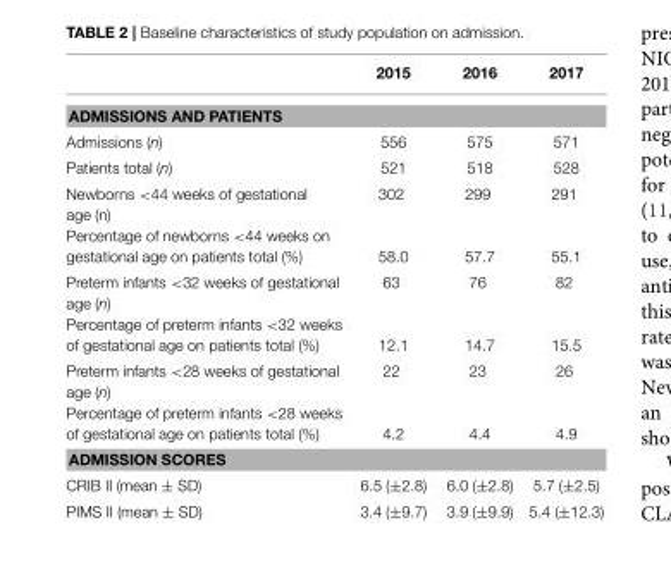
<table><thead><tr><td></td><td>2015</td><td>2016</td><td>2017</td></tr></thead><tbody><tr><td colspan="4">ADMISSIONS AND PATIENTS</td></tr><tr><td>Admissions (n)</td><td>556</td><td>575</td><td>571</td></tr><tr><td>Patients total (n)</td><td>521</td><td>518</td><td>528</td></tr><tr><td>Newborns &lt;44 weeks of gestational age (n) Percentage of newborns &lt;44 weeks on gestational age on patients total (%)</td><td>302 58.0</td><td>299 57.7</td><td>291 55.1</td></tr><tr><td>Preterm infants &lt;32 weeks of gestational age (n) Percentage of preterm infants &lt;32 weeks of gestational age on patients total (%)</td><td>63 12.1</td><td>76 14.7</td><td>82 15.5</td></tr><tr><td>Preterm infants &lt;28 weeks of gestational age (n) Percentage of preterm infants &lt;28 weeks of gestational age on patients total (%)</td><td>22 4.2</td><td>23 4.4</td><td>26 4.9</td></tr><tr><td colspan="4">ADMISSION SCORES</td></tr><tr><td>CRIB II (mean ± SD)</td><td>6.5 (±2.8)</td><td>6.0 (±2.8)</td><td>5.7 (±2.5)</td></tr><tr><td>PIMS II (mean ± SD)</td><td>3.4 (±9.7)</td><td>3.9 (±9.9)</td><td>5.4 (±12.3)</td></tr></tbody></table>